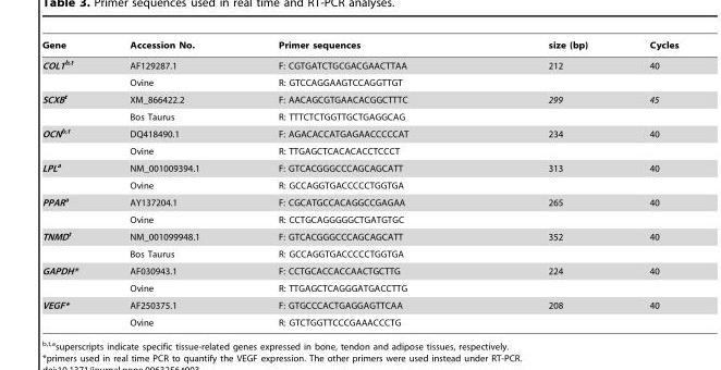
<table><thead><tr><td>Gene</td><td>Accession No.</td><td>Primer sequences</td><td>size (bp)</td><td>Cycles</td></tr></thead><tbody><tr><td rowspan="2">COL1b,t</td><td>AF129287.1</td><td>F: CGTGATCTGCGACGAACTTAA</td><td>212</td><td>40</td></tr><tr><td>Ovine</td><td>R: GTCCAGGAAGTCCAGGTTGT</td><td></td><td></td></tr><tr><td rowspan="2">SCXBt</td><td>XM_866422.2</td><td>F: AACAGCGTGAACACGGCTTTC</td><td>299</td><td>45</td></tr><tr><td>Bos Taurus</td><td>R: TTTCTCTGGTTGCTGAGGCAG</td><td></td><td></td></tr><tr><td rowspan="2">OCNb,t</td><td>DQ418490.1</td><td>F: AGACACCATGAGAACCCCCAT</td><td>234</td><td>40</td></tr><tr><td>Ovine</td><td>R: TTGAGCTCACACACCTCCCT</td><td></td><td></td></tr><tr><td rowspan="2">LPLa</td><td>NM_001009394.1</td><td>F: GTCACGGGCCCAGCAGCATT</td><td>313</td><td>40</td></tr><tr><td>Ovine</td><td>R: GCCAGGTGACCCCCTGGTGA</td><td></td><td></td></tr><tr><td rowspan="2">PPARa</td><td>AY137204.1</td><td>F: CGCATGCCACAGGCCGAGAA</td><td>265</td><td>40</td></tr><tr><td>Ovine</td><td>R: CCTGCAGGGGGCTGATGTGC</td><td></td><td></td></tr><tr><td rowspan="2">TNMDt</td><td>NM_001099948.1</td><td>F: GTCACGGGCCCAGCAGCATT</td><td>352</td><td>40</td></tr><tr><td>Bos Taurus</td><td>R: GCCAGGTGACCCCCTGGTGA</td><td></td><td></td></tr><tr><td rowspan="2">GAPDH*</td><td>AF030943.1</td><td>F: CCTGCACCACCAACTGCTTG</td><td>224</td><td>40</td></tr><tr><td>Ovine</td><td>R: TTGAGCTCAGGGATGACCTTG</td><td></td><td></td></tr><tr><td rowspan="2">VEGF*</td><td>AF250375.1</td><td>F: GTGCCCACTGAGGAGTTCAA</td><td>208</td><td>40</td></tr><tr><td>Ovine</td><td>R: GTCTGGTTCCCGAAACCCTG</td><td></td><td></td></tr></tbody></table>